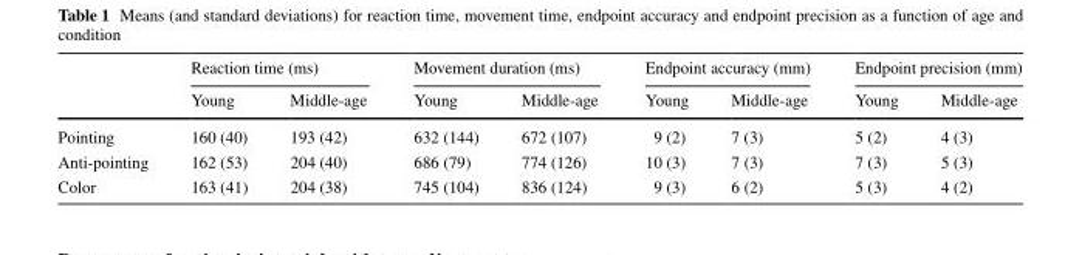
<table><thead><tr><td rowspan="2"></td><td colspan="2">Reaction time (ms)</td><td colspan="2">Movement duration (ms)</td><td colspan="2">Endpoint accuracy (mm)</td><td colspan="2">Endpoint precision (mm)</td></tr><tr><td>Young</td><td>Middle-age</td><td>Young</td><td>Middle-age</td><td>Young</td><td>Middle-age</td><td>Young</td><td>Middle-age</td></tr></thead><tbody><tr><td>Pointing</td><td>160 (40)</td><td>193 (42)</td><td>632 (144)</td><td>672 (107)</td><td>9 (2)</td><td>7 (3)</td><td>5 (2)</td><td>4 (3)</td></tr><tr><td>Anti-pointing</td><td>162 (53)</td><td>204 (40)</td><td>686 (79)</td><td>774 (126)</td><td>10 (3)</td><td>7 (3)</td><td>7 (3)</td><td>5 (3)</td></tr><tr><td>Color</td><td>163 (41)</td><td>204 (38)</td><td>745 (104)</td><td>836 (124)</td><td>9 (3)</td><td>6 (2)</td><td>5 (3)</td><td>4 (2)</td></tr></tbody></table>